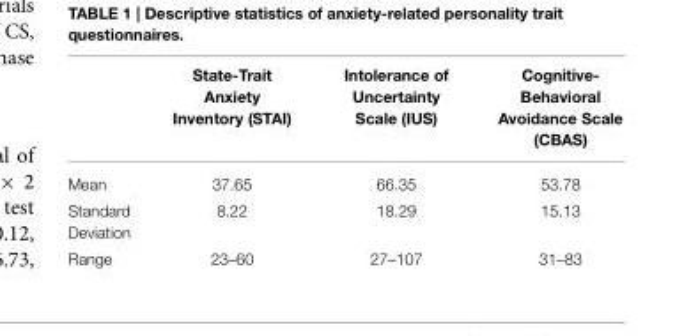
<table><thead><tr><td></td><td>State-Trait Anxiety Inventory (STAI)</td><td>Intolerance of Uncertainty Scale (IUS)</td><td>Cognitive- Behavioral Avoidance Scale (CBAS)</td></tr></thead><tbody><tr><td>Mean</td><td>37.65</td><td>66.35</td><td>53.78</td></tr><tr><td>Standard Deviation</td><td>8.22</td><td>18.29</td><td>15.13</td></tr><tr><td>Range</td><td>23–60</td><td>27–107</td><td>31–83</td></tr></tbody></table>